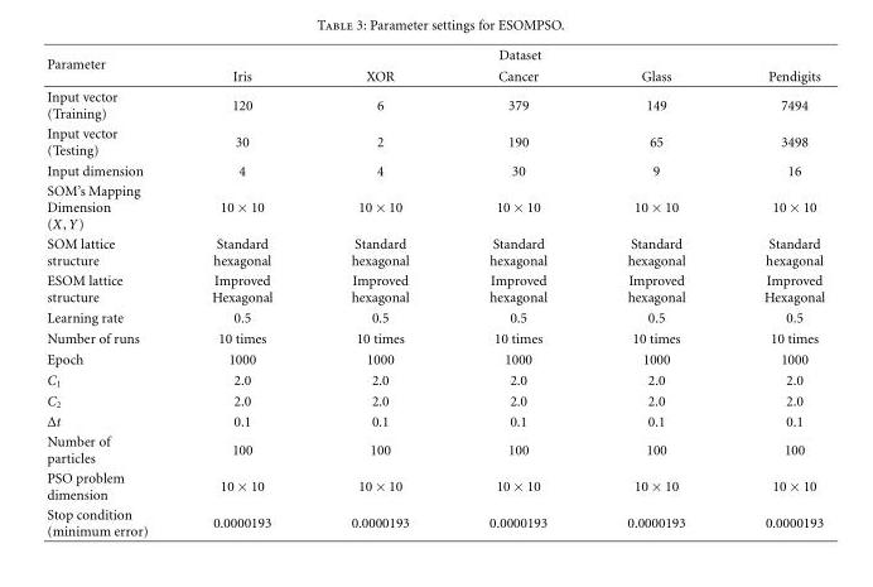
<table><thead><tr><td rowspan="2">Parameter</td><td colspan="5">Dataset</td></tr><tr><td>Iris</td><td>XOR</td><td>Cancer</td><td>Glass</td><td>Pendigits</td></tr></thead><tbody><tr><td>Input vector (Training)</td><td>120</td><td>6</td><td>379</td><td>149</td><td>7494</td></tr><tr><td>Input vector (Testing)</td><td>30</td><td>2</td><td>190</td><td>65</td><td>3498</td></tr><tr><td>Input dimension</td><td>4</td><td>4</td><td>30</td><td>9</td><td>16</td></tr><tr><td>SOM’s Mapping Dimension (X,Y)</td><td>10 × 10</td><td>10 × 10</td><td>10 × 10</td><td>10 × 10</td><td>10 × 10</td></tr><tr><td>SOM lattice structure</td><td>Standard hexagonal</td><td>Standard hexagonal</td><td>Standard hexagonal</td><td>Standard hexagonal</td><td>Standard hexagonal</td></tr><tr><td>ESOM lattice structure</td><td>Improved Hexagonal</td><td>Improved hexagonal</td><td>Improved hexagonal</td><td>Improved hexagonal</td><td>Improved Hexagonal</td></tr><tr><td>Learning rate</td><td>0.5</td><td>0.5</td><td>0.5</td><td>0.5</td><td>0.5</td></tr><tr><td>Number of runs</td><td>10 times</td><td>10 times</td><td>10 times</td><td>10 times</td><td>10 times</td></tr><tr><td>Epoch</td><td>1000</td><td>1000</td><td>1000</td><td>1000</td><td>1000</td></tr><tr><td>C<sub>1</sub></td><td>2.0</td><td>2.0</td><td>2.0</td><td>2.0</td><td>2.0</td></tr><tr><td>C<sub>2</sub></td><td>2.0</td><td>2.0</td><td>2.0</td><td>2.0</td><td>2.0</td></tr><tr><td>Δt</td><td>0.1</td><td>0.1</td><td>0.1</td><td>0.1</td><td>0.1</td></tr><tr><td>Number of particles</td><td>100</td><td>100</td><td>100</td><td>100</td><td>100</td></tr><tr><td>PSO problem dimension</td><td>10 × 10</td><td>10 × 10</td><td>10 × 10</td><td>10 × 10</td><td>10 × 10</td></tr><tr><td>Stop condition (minimum error)</td><td>0.0000193</td><td>0.0000193</td><td>0.0000193</td><td>0.0000193</td><td>0.0000193</td></tr></tbody></table>